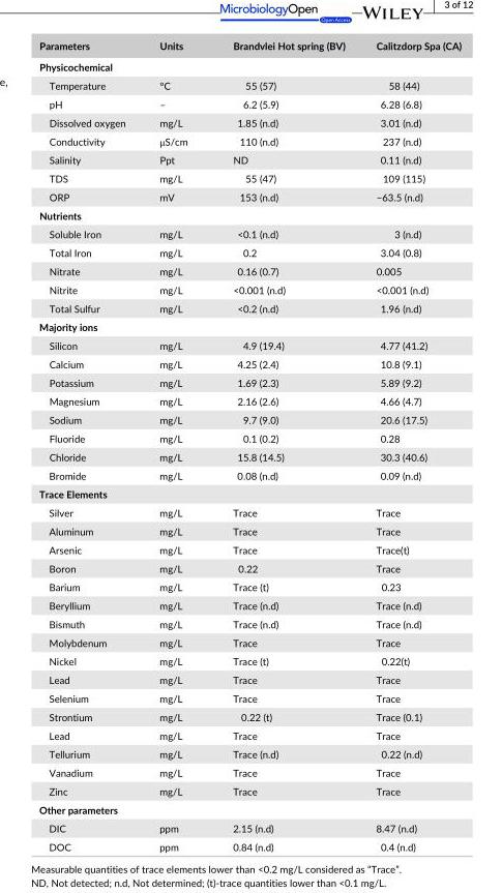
<table><thead><tr><td>Parameters</td><td>Units</td><td>Brandvlei Hot spring (BV)</td><td>Calitzdorp Spa (CA)</td></tr></thead><tbody><tr><td colspan="4">Physicochemical</td></tr><tr><td>Temperature</td><td>°C</td><td>55 (57)</td><td>58 (44)</td></tr><tr><td>pH</td><td>–</td><td>6.2 (5.9)</td><td>6.28 (6.8)</td></tr><tr><td>Dissolved oxygen</td><td>mg/L</td><td>1.85 (n.d)</td><td>3.01 (n.d)</td></tr><tr><td>Conductivity</td><td>μS/cm</td><td>110 (n.d)</td><td>237 (n.d)</td></tr><tr><td>Salinity</td><td>Ppt</td><td>ND</td><td>0.11 (n.d)</td></tr><tr><td>TDS</td><td>mg/L</td><td>55 (47)</td><td>109 (115)</td></tr><tr><td>ORP</td><td>mV</td><td>153 (n.d)</td><td>−63.5 (n.d)</td></tr><tr><td colspan="4">Nutrients</td></tr><tr><td>Soluble Iron</td><td>mg/L</td><td>&lt;0.1 (n.d)</td><td>3 (n.d)</td></tr><tr><td>Total Iron</td><td>mg/L</td><td>0.2</td><td>3.04 (0.8)</td></tr><tr><td>Nitrate</td><td>mg/L</td><td>0.16 (0.7)</td><td>0.005</td></tr><tr><td>Nitrite</td><td>mg/L</td><td>&lt;0.001 (n.d)</td><td>&lt;0.001 (n.d)</td></tr><tr><td>Total Sulfur</td><td>mg/L</td><td>&lt;0.2 (n.d)</td><td>1.96 (n.d)</td></tr><tr><td colspan="4">Majority ions</td></tr><tr><td>Silicon</td><td>mg/L</td><td>4.9 (19.4)</td><td>4.77 (41.2)</td></tr><tr><td>Calcium</td><td>mg/L</td><td>4.25 (2.4)</td><td>10.8 (9.1)</td></tr><tr><td>Potassium</td><td>mg/L</td><td>1.69 (2.3)</td><td>5.89 (9.2)</td></tr><tr><td>Magnesium</td><td>mg/L</td><td>2.16 (2.6)</td><td>4.66 (4.7)</td></tr><tr><td>Sodium</td><td>mg/L</td><td>9.7 (9.0)</td><td>20.6 (17.5)</td></tr><tr><td>Fluoride</td><td>mg/L</td><td>0.1 (0.2)</td><td>0.28</td></tr><tr><td>Chloride</td><td>mg/L</td><td>15.8 (14.5)</td><td>30.3 (40.6)</td></tr><tr><td>Bromide</td><td>mg/L</td><td>0.08 (n.d)</td><td>0.09 (n.d)</td></tr><tr><td colspan="4">Trace Elements</td></tr><tr><td>Silver</td><td>mg/L</td><td>Trace</td><td>Trace</td></tr><tr><td>Aluminum</td><td>mg/L</td><td>Trace</td><td>Trace</td></tr><tr><td>Arsenic</td><td>mg/L</td><td>Trace</td><td>Trace(t)</td></tr><tr><td>Boron</td><td>mg/L</td><td>0.22</td><td>Trace</td></tr><tr><td>Barium</td><td>mg/L</td><td>Trace (t)</td><td>0.23</td></tr><tr><td>Beryllium</td><td>mg/L</td><td>Trace (n.d)</td><td>Trace (n.d)</td></tr><tr><td>Bismuth</td><td>mg/L</td><td>Trace (n.d)</td><td>Trace (n.d)</td></tr><tr><td>Molybdenum</td><td>mg/L</td><td>Trace</td><td>Trace</td></tr><tr><td>Nickel</td><td>mg/L</td><td>Trace (t)</td><td>0.22(t)</td></tr><tr><td>Lead</td><td>mg/L</td><td>Trace</td><td>Trace</td></tr><tr><td>Selenium</td><td>mg/L</td><td>Trace</td><td>Trace</td></tr><tr><td>Strontium</td><td>mg/L</td><td>0.22 (t)</td><td>Trace (0.1)</td></tr><tr><td>Lead</td><td>mg/L</td><td>Trace</td><td>Trace</td></tr><tr><td>Tellurium</td><td>mg/L</td><td>Trace (n.d)</td><td>0.22 (n.d)</td></tr><tr><td>Vanadium</td><td>mg/L</td><td>Trace</td><td>Trace</td></tr><tr><td>Zinc</td><td>mg/L</td><td>Trace</td><td>Trace</td></tr><tr><td colspan="4">Other parameters</td></tr><tr><td>DIC</td><td>ppm</td><td>2.15 (n.d)</td><td>8.47 (n.d)</td></tr><tr><td>DOC</td><td>ppm</td><td>0.84 (n.d)</td><td>0.4 (n.d)</td></tr></tbody></table>